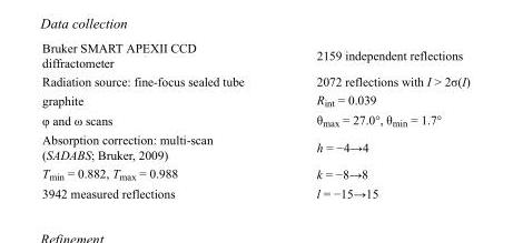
<table><tbody><tr><td>Bruker SMART APEXII CCD diffractometer</td><td>2159 independent reflections</td></tr><tr><td>Radiation source: fine-focus sealed tube</td><td>2072 reflections with I &gt; 2σ(I)</td></tr><tr><td>graphite</td><td>R<sub>int</sub> = 0.039</td></tr><tr><td>φ and ω scans</td><td>θ<sub>max</sub> = 27.0°, θ<sub>min</sub> = 1.7°</td></tr><tr><td>Absorption correction: multi-scan (SADABS; Bruker, 2009)</td><td>h = −4→4</td></tr><tr><td>T<sub>min</sub> = 0.882, T<sub>max</sub> = 0.988</td><td>k = −8→8</td></tr><tr><td>3942 measured reflections</td><td>l = −15→15</td></tr></tbody></table>